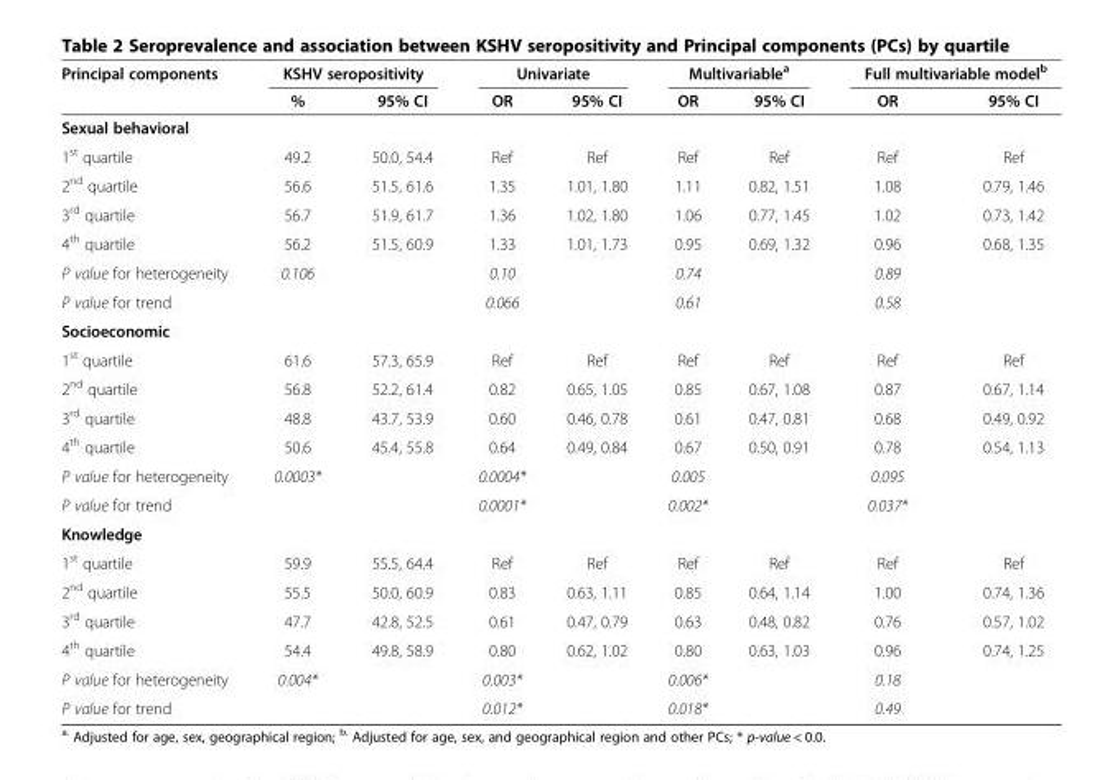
<table><thead><tr><td rowspan="2">Principal components</td><td colspan="2">KSHV seropositivity</td><td colspan="2">Univariate</td><td colspan="2">Multivariable<sup>a</sup></td><td colspan="2">Full multivariable model<sup>b</sup></td></tr><tr><td>%</td><td>95% CI</td><td>OR</td><td>95% CI</td><td>OR</td><td>95% CI</td><td>OR</td><td>95% CI</td></tr></thead><tbody><tr><td colspan="9">Sexual behavioral</td></tr><tr><td>1<sup>st</sup> quartile</td><td>49.2</td><td>50.0, 54.4</td><td>Ref</td><td>Ref</td><td>Ref</td><td>Ref</td><td>Ref</td><td>Ref</td></tr><tr><td>2<sup>nd</sup> quartile</td><td>56.6</td><td>51.5, 61.6</td><td>1.35</td><td>1.01, 1.80</td><td>1.11</td><td>0.82, 1.51</td><td>1.08</td><td>0.79, 1.46</td></tr><tr><td>3<sup>rd</sup> quartile</td><td>56.7</td><td>51.9, 61.7</td><td>1.36</td><td>1.02, 1.80</td><td>1.06</td><td>0.77, 1.45</td><td>1.02</td><td>0.73, 1.42</td></tr><tr><td>4<sup>th</sup> quartile</td><td>56.2</td><td>51.5, 60.9</td><td>1.33</td><td>1.01, 1.73</td><td>0.95</td><td>0.69, 1.32</td><td>0.96</td><td>0.68, 1.35</td></tr><tr><td>P value for heterogeneity</td><td>0.106</td><td></td><td>0.10</td><td></td><td>0.74</td><td></td><td>0.89</td><td></td></tr><tr><td>P value for trend</td><td></td><td></td><td>0.066</td><td></td><td>0.61</td><td></td><td>0.58</td><td></td></tr><tr><td colspan="9">Socioeconomic</td></tr><tr><td>1<sup>st</sup> quartile</td><td>61.6</td><td>57.3, 65.9</td><td>Ref</td><td>Ref</td><td>Ref</td><td>Ref</td><td>Ref</td><td>Ref</td></tr><tr><td>2<sup>nd</sup> quartile</td><td>56.8</td><td>52.2, 61.4</td><td>0.82</td><td>0.65, 1.05</td><td>0.85</td><td>0.67, 1.08</td><td>0.87</td><td>0.67, 1.14</td></tr><tr><td>3<sup>rd</sup> quartile</td><td>48.8</td><td>43.7, 53.9</td><td>0.60</td><td>0.46, 0.78</td><td>0.61</td><td>0.47, 0.81</td><td>0.68</td><td>0.49, 0.92</td></tr><tr><td>4<sup>th</sup> quartile</td><td>50.6</td><td>45.4, 55.8</td><td>0.64</td><td>0.49, 0.84</td><td>0.67</td><td>0.50, 0.91</td><td>0.78</td><td>0.54, 1.13</td></tr><tr><td>P value for heterogeneity</td><td>0.0003*</td><td></td><td>0.0004*</td><td></td><td>0.005</td><td></td><td>0.095</td><td></td></tr><tr><td>P value for trend</td><td></td><td></td><td>0.0001*</td><td></td><td>0.002*</td><td></td><td>0.037*</td><td></td></tr><tr><td colspan="9">Knowledge</td></tr><tr><td>1<sup>st</sup> quartile</td><td>59.9</td><td>55.5, 64.4</td><td>Ref</td><td>Ref</td><td>Ref</td><td>Ref</td><td>Ref</td><td>Ref</td></tr><tr><td>2<sup>nd</sup> quartile</td><td>55.5</td><td>50.0, 60.9</td><td>0.83</td><td>0.63, 1.11</td><td>0.85</td><td>0.64, 1.14</td><td>1.00</td><td>0.74, 1.36</td></tr><tr><td>3<sup>rd</sup> quartile</td><td>47.7</td><td>42.8, 52.5</td><td>0.61</td><td>0.47, 0.79</td><td>0.63</td><td>0.48, 0.82</td><td>0.76</td><td>0.57, 1.02</td></tr><tr><td>4<sup>th</sup> quartile</td><td>54.4</td><td>49.8, 58.9</td><td>0.80</td><td>0.62, 1.02</td><td>0.80</td><td>0.63, 1.03</td><td>0.96</td><td>0.74, 1.25</td></tr><tr><td>P value for heterogeneity</td><td>0.004*</td><td></td><td>0.003*</td><td></td><td>0.006*</td><td></td><td>0.18</td><td></td></tr><tr><td>P value for trend</td><td></td><td></td><td>0.012*</td><td></td><td>0.018*</td><td></td><td>0.49</td><td></td></tr></tbody></table>